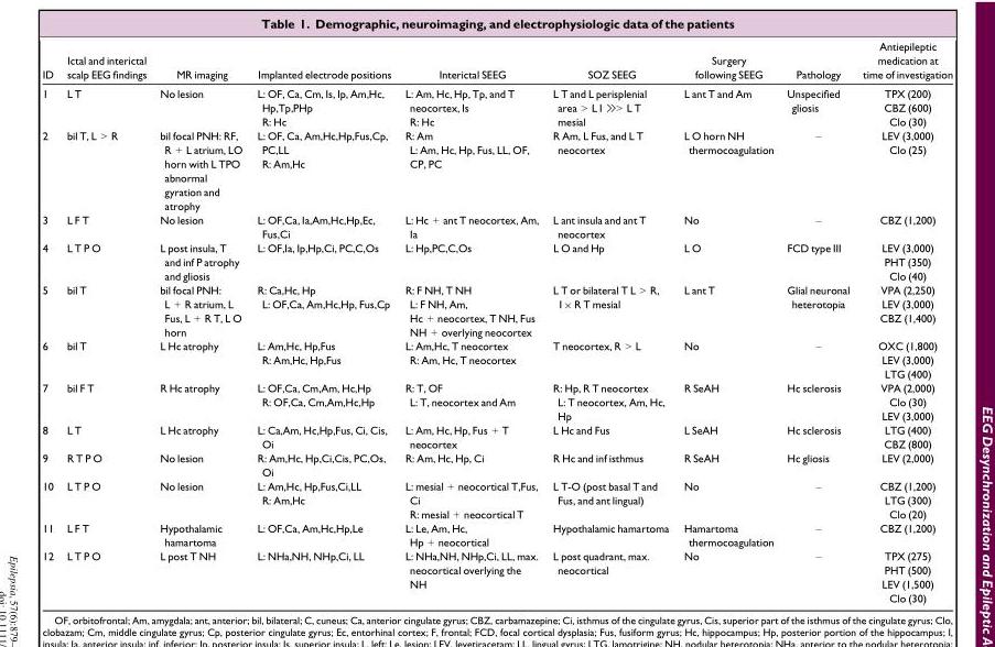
<table><thead><tr><td>ID</td><td>Ictal and interictal scalp EEG findings</td><td>MR imaging</td><td>Implanted electrode positions</td><td>Interictal SEEG</td><td>SOZ SEEG</td><td>Surgery following SEEG</td><td>Pathology</td><td>Antiepileptic medication at time of investigation</td></tr></thead><tbody><tr><td>1</td><td>L T</td><td>No lesion</td><td>L: OF, Ca, Cm, Is, Ip, Am,Hc, Hp,Tp,PHp R: Hc</td><td>L: Am, Hc, Hp, Tp, and T neocortex, Is R: Hc</td><td>L T and L perisplenial area &gt; L I ≫&gt; L T mesial</td><td>L ant T and Am</td><td>Unspecified gliosis</td><td>TPX (200) CBZ (600) Clo (30)</td></tr><tr><td>2</td><td>bil T, L &gt; R</td><td>bil focal PNH: RF, R + L atrium, LO horn with L TPO abnormal gyration and atrophy</td><td>L: OF, Ca, Am,Hc,Hp,Fus,Cp, PC,LL R: Am,Hc</td><td>R: Am L: Am, Hc, Hp, Fus, LL, OF, CP, PC</td><td>R Am, L Fus, and L T neocortex</td><td>L O horn NH thermocoagulation</td><td>–</td><td>LEV (3,000) Clo (25)</td></tr><tr><td>3</td><td>L F T</td><td>No lesion</td><td>L: OF,Ca, Ia,Am,Hc,Hp,Ec, Fus,Ci</td><td>L: Hc + ant T neocortex, Am, Ia</td><td>L ant insula and ant T neocortex</td><td>No</td><td>–</td><td>CBZ (1,200)</td></tr><tr><td>4</td><td>L T P O</td><td>L post insula, T and inf P atrophy and gliosis</td><td>L: OF,Ia, Ip,Hp,Ci, PC,C,Os</td><td>L: Hp,PC,C,Os</td><td>L O and Hp</td><td>L O</td><td>FCD type III</td><td>LEV (3,000) PHT (350) Clo (40)</td></tr><tr><td>5</td><td>bil T</td><td>bil focal PNH: L + R atrium, L Fus, L + R T, L O horn</td><td>R: Ca,Hc, Hp L: OF,Ca, Am,Hc,Hp, Fus,Cp</td><td>R: F NH, T NH L: F NH, Am, Hc + neocortex, T NH, Fus NH + overlying neocortex</td><td>L T or bilateral T L &gt; R, 1× R T mesial</td><td>L ant T</td><td>Glial neuronal heterotopia</td><td>VPA (2,250) LEV (3,000) CBZ (1,400)</td></tr><tr><td>6</td><td>bil T</td><td>L Hc atrophy</td><td>L: Am,Hc, Hp,Fus R: Am,Hc, Hp,Fus</td><td>L: Am,Hc, T neocortex R: Am, Hc, T neocortex</td><td>T neocortex, R &gt; L</td><td>No</td><td>–</td><td>OXC (1,800) LEV (3,000) LTG (400)</td></tr><tr><td>7</td><td>bil F T</td><td>R Hc atrophy</td><td>L: OF,Ca, Cm,Am, Hc,Hp R: OF,Ca, Cm,Am,Hc,Hp</td><td>R: T, OF L: T, neocortex and Am</td><td>R: Hp, R T neocortex L: T neocortex, Am, Hc, Hp</td><td>R SeAH</td><td>Hc sclerosis</td><td>VPA (2,000) Clo (30) LEV (3,000)</td></tr><tr><td>8</td><td>L T</td><td>L Hc atrophy</td><td>L: Ca,Am, Hc,Hp,Fus, Ci, Cis, Oi</td><td>L: Am, Hc, Hp, Fus + T neocortex</td><td>L Hc and Fus</td><td>L SeAH</td><td>Hc sclerosis</td><td>LTG (400) CBZ (800)</td></tr><tr><td>9</td><td>R T P O</td><td>No lesion</td><td>R: Am,Hc, Hp,Ci,Cis, PC,Os, Oi</td><td>R: Am, Hc, Hp, Ci</td><td>R Hc and inf isthmus</td><td>R SeAH</td><td>Hc gliosis</td><td>LEV (2,000)</td></tr><tr><td>10</td><td>L T P O</td><td>No lesion</td><td>L: Am,Hc, Hp,Fus,Ci,LL R: Am,Hc</td><td>L: mesial + neocortical T,Fus, Ci R: mesial + neocortical T</td><td>L T-O (post basal T and Fus, and ant lingual)</td><td>No</td><td>–</td><td>CBZ (1,200) LTG (300) Clo (20)</td></tr><tr><td>11</td><td>L F T</td><td>Hypothalamic hamartoma</td><td>L: OF,Ca, Am,Hc,Hp,Le</td><td>L: Le, Am, Hc, Hp + neocortical</td><td>Hypothalamic hamartoma</td><td>Hamartoma thermocoagulation</td><td>–</td><td>CBZ (1,200)</td></tr><tr><td>12</td><td>L T P O</td><td>L post T NH</td><td>L: NHa,NH, NHp,Ci, LL</td><td>L: NHa,NH, NHp,Ci, LL, max. neocortical overlying the NH</td><td>L post quadrant, max. neocortical</td><td>No</td><td>–</td><td>TPX (275) PHT (500) LEV (1,500) Clo (30)</td></tr></tbody></table>